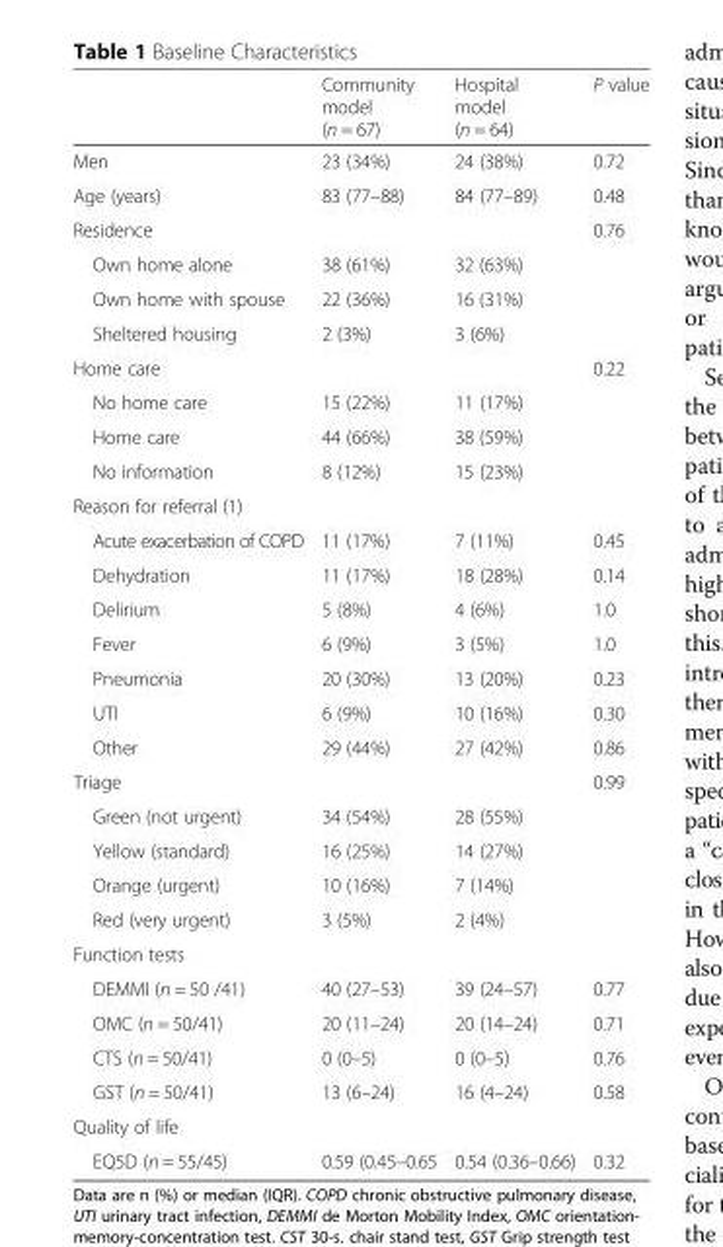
<table><thead><tr><td></td><td>Community model (n = 67)</td><td>Hospital model (n = 64)</td><td>P value</td></tr></thead><tbody><tr><td>Men</td><td>23 (34%)</td><td>24 (38%)</td><td>0.72</td></tr><tr><td>Age (years)</td><td>83 (77–88)</td><td>84 (77–89)</td><td>0.48</td></tr><tr><td colspan="3">Residence</td><td>0.76</td></tr><tr><td>Own home alone</td><td>38 (61%)</td><td>32 (63%)</td><td></td></tr><tr><td>Own home with spouse</td><td>22 (36%)</td><td>16 (31%)</td><td></td></tr><tr><td>Sheltered housing</td><td>2 (3%)</td><td>3 (6%)</td><td></td></tr><tr><td colspan="3">Home care</td><td>0.22</td></tr><tr><td>No home care</td><td>15 (22%)</td><td>11 (17%)</td><td></td></tr><tr><td>Home care</td><td>44 (66%)</td><td>38 (59%)</td><td></td></tr><tr><td>No information</td><td>8 (12%)</td><td>15 (23%)</td><td></td></tr><tr><td colspan="4">Reason for referral (1)</td></tr><tr><td>Acute exacerbation of COPD</td><td>11 (17%)</td><td>7 (11%)</td><td>0.45</td></tr><tr><td>Dehydration</td><td>11 (17%)</td><td>18 (28%)</td><td>0.14</td></tr><tr><td>Delirium</td><td>5 (8%)</td><td>4 (6%)</td><td>1.0</td></tr><tr><td>Fever</td><td>6 (9%)</td><td>3 (5%)</td><td>1.0</td></tr><tr><td>Pneumonia</td><td>20 (30%)</td><td>13 (20%)</td><td>0.23</td></tr><tr><td>UTI</td><td>6 (9%)</td><td>10 (16%)</td><td>0.30</td></tr><tr><td>Other</td><td>29 (44%)</td><td>27 (42%)</td><td>0.86</td></tr><tr><td colspan="3">Triage</td><td>0.99</td></tr><tr><td>Green (not urgent)</td><td>34 (54%)</td><td>28 (55%)</td><td></td></tr><tr><td>Yellow (standard)</td><td>16 (25%)</td><td>14 (27%)</td><td></td></tr><tr><td>Orange (urgent)</td><td>10 (16%)</td><td>7 (14%)</td><td></td></tr><tr><td>Red (very urgent)</td><td>3 (5%)</td><td>2 (4%)</td><td></td></tr><tr><td colspan="4">Function tests</td></tr><tr><td>DEMMI (n = 50 /41)</td><td>40 (27–53)</td><td>39 (24–57)</td><td>0.77</td></tr><tr><td>OMC (n = 50/41)</td><td>20 (11–24)</td><td>20 (14–24)</td><td>0.71</td></tr><tr><td>CTS (n = 50/41)</td><td>0 (0–5)</td><td>0 (0–5)</td><td>0.76</td></tr><tr><td>GST (n = 50/41)</td><td>13 (6–24)</td><td>16 (4–24)</td><td>0.58</td></tr><tr><td colspan="4">Quality of life</td></tr><tr><td>EQ5D (n = 55/45)</td><td>0.59 (0.45–0.65</td><td>0.54 (0.36–0.66)</td><td>0.32</td></tr></tbody></table>